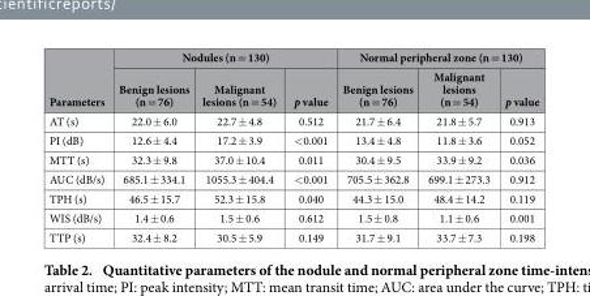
<table><thead><tr><td rowspan="2">Parameters</td><td colspan="3">Nodules (n = 130)</td><td colspan="3">Normal peripheral zone (n = 130)</td></tr><tr><td>Benign lesions (n = 76)</td><td>Malignant lesions (n = 54)</td><td>p value</td><td>Benign lesions (n = 76)</td><td>Malignant lesions (n = 54)</td><td>p value</td></tr></thead><tbody><tr><td>AT (s)</td><td>22.0 ± 6.0</td><td>22.7 ± 4.8</td><td>0.512</td><td>21.7 ± 6.4</td><td>21.8 ± 5.7</td><td>0.913</td></tr><tr><td>PI (dB)</td><td>12.6 ± 4.4</td><td>17.2 ± 3.9</td><td>&lt; 0.001</td><td>13.4 ± 4.8</td><td>11.8 ± 3.6</td><td>0.052</td></tr><tr><td>MTT (s)</td><td>32.3 ± 9.8</td><td>37.0 ± 10.4</td><td>0.011</td><td>30.4 ± 9.5</td><td>33.9 ± 9.2</td><td>0.036</td></tr><tr><td>AUC (dB/s)</td><td>685.1 ± 334.1</td><td>1055.3 ± 404.4</td><td>&lt; 0.001</td><td>705.5 ± 362.8</td><td>699.1 ± 273.3</td><td>0.912</td></tr><tr><td>TPH (s)</td><td>46.5 ± 15.7</td><td>52.3 ± 15.8</td><td>0.040</td><td>44.3 ± 15.0</td><td>48.4 ± 14.2</td><td>0.119</td></tr><tr><td>WIS (dB/s)</td><td>1.4 ± 0.6</td><td>1.5 ± 0.6</td><td>0.612</td><td>1.5 ± 0.8</td><td>1.1 ± 0.6</td><td>0.001</td></tr><tr><td>TTP (s)</td><td>32.4 ± 8.2</td><td>30.5 ± 5.9</td><td>0.149</td><td>31.7 ± 9.1</td><td>33.7 ± 7.3</td><td>0.198</td></tr></tbody></table>